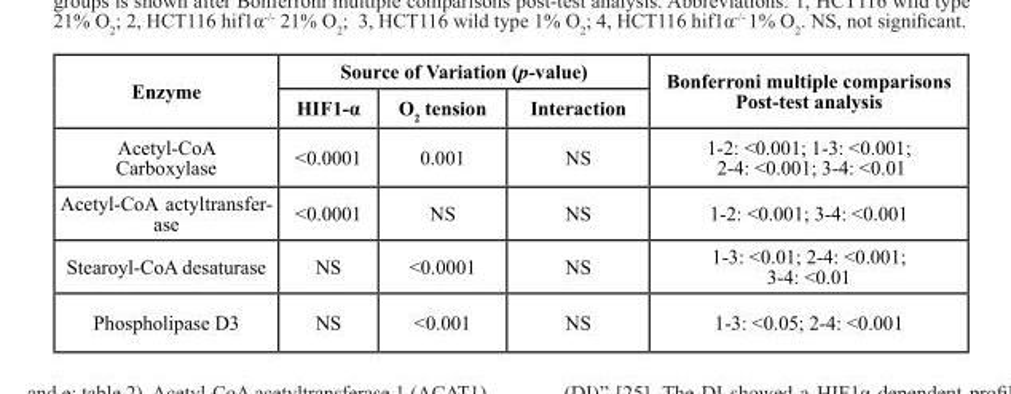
<table><thead><tr><td rowspan="2">Enzyme</td><td colspan="3">Source of Variation (p-value)</td><td rowspan="2">Bonferroni multiple comparisons Post-test analysis</td></tr><tr><td>HIF1-α</td><td>O<sub>2</sub> tension</td><td>Interaction</td></tr></thead><tbody><tr><td>Acetyl-CoA Carboxylase</td><td>&lt;0.0001</td><td>0.001</td><td>NS</td><td>1-2: &lt;0.001; 1-3: &lt;0.001; 2-4: &lt;0.001; 3-4: &lt;0.01</td></tr><tr><td>Acetyl-CoA actyltransfer- ase</td><td>&lt;0.0001</td><td>NS</td><td>NS</td><td>1-2: &lt;0.001; 3-4: &lt;0.001</td></tr><tr><td>Stearoyl-CoA desaturase</td><td>NS</td><td>&lt;0.0001</td><td>NS</td><td>1-3: &lt;0.01; 2-4: &lt;0.001; 3-4: &lt;0.01</td></tr><tr><td>Phospholipase D3</td><td>NS</td><td>&lt;0.001</td><td>NS</td><td>1-3: &lt;0.05; 2-4: &lt;0.001</td></tr></tbody></table>